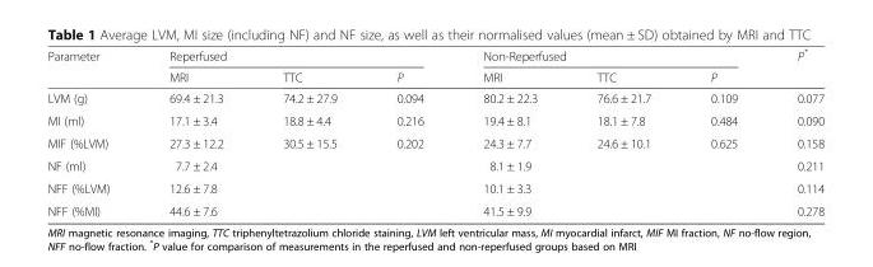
<table><thead><tr><td rowspan="2">Parameter</td><td colspan="3">Reperfused</td><td colspan="3">Non-Reperfused</td><td rowspan="2">P*</td></tr><tr><td>MRI</td><td>TTC</td><td>P</td><td>MRI</td><td>TTC</td><td>P</td></tr></thead><tbody><tr><td>LVM (g)</td><td>69.4 ± 21.3</td><td>74.2 ± 27.9</td><td>0.094</td><td>80.2 ± 22.3</td><td>76.6 ± 21.7</td><td>0.109</td><td>0.077</td></tr><tr><td>MI (ml)</td><td>17.1 ± 3.4</td><td>18.8 ± 4.4</td><td>0.216</td><td>19.4 ± 8.1</td><td>18.1 ± 7.8</td><td>0.484</td><td>0.090</td></tr><tr><td>MIF (%LVM)</td><td>27.3 ± 12.2</td><td>30.5 ± 15.5</td><td>0.202</td><td>24.3 ± 7.7</td><td>24.6 ± 10.1</td><td>0.625</td><td>0.158</td></tr><tr><td>NF (ml)</td><td>7.7 ± 2.4</td><td></td><td></td><td>8.1 ± 1.9</td><td></td><td></td><td>0.211</td></tr><tr><td>NFF (%LVM)</td><td>12.6 ± 7.8</td><td></td><td></td><td>10.1 ± 3.3</td><td></td><td></td><td>0.114</td></tr><tr><td>NFF (%MI)</td><td>44.6 ± 7.6</td><td></td><td></td><td>41.5 ± 9.9</td><td></td><td></td><td>0.278</td></tr></tbody></table>